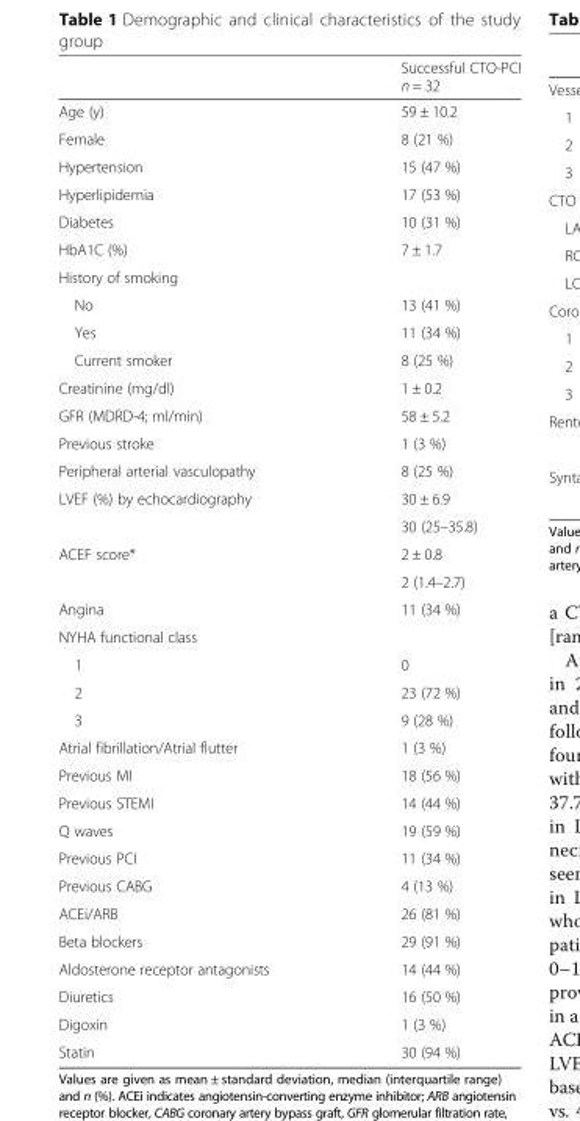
<table><thead><tr><td></td><td>Successful CTO-PCI n = 32</td></tr></thead><tbody><tr><td>Age (y)</td><td>59 ± 10.2</td></tr><tr><td>Female</td><td>8 (21 %)</td></tr><tr><td>Hypertension</td><td>15 (47 %)</td></tr><tr><td>Hyperlipidemia</td><td>17 (53 %)</td></tr><tr><td>Diabetes</td><td>10 (31 %)</td></tr><tr><td>HbA1C (%)</td><td>7 ± 1.7</td></tr><tr><td colspan="2">History of smoking</td></tr><tr><td>No</td><td>13 (41 %)</td></tr><tr><td>Yes</td><td>11 (34 %)</td></tr><tr><td>Current smoker</td><td>8 (25 %)</td></tr><tr><td>Creatinine (mg/dl)</td><td>1 ± 0.2</td></tr><tr><td>GFR (MDRD-4; ml/min)</td><td>58 ± 5.2</td></tr><tr><td>Previous stroke</td><td>1 (3 %)</td></tr><tr><td>Peripheral arterial vasculopathy</td><td>8 (25 %)</td></tr><tr><td rowspan="2">LVEF (%) by echocardiography</td><td>30 ± 6.9</td></tr><tr><td>30 (25–35.8)</td></tr><tr><td rowspan="2">ACEF score*</td><td>2 ± 0.8</td></tr><tr><td>2 (1.4–2.7)</td></tr><tr><td>Angina</td><td>11 (34 %)</td></tr><tr><td colspan="2">NYHA functional class</td></tr><tr><td>1</td><td>0</td></tr><tr><td>2</td><td>23 (72 %)</td></tr><tr><td>3</td><td>9 (28 %)</td></tr><tr><td>Atrial fibrillation/Atrial flutter</td><td>1 (3 %)</td></tr><tr><td>Previous MI</td><td>18 (56 %)</td></tr><tr><td>Previous STEMI</td><td>14 (44 %)</td></tr><tr><td>Q waves</td><td>19 (59 %)</td></tr><tr><td>Previous PCI</td><td>11 (34 %)</td></tr><tr><td>Previous CABG</td><td>4 (13 %)</td></tr><tr><td>ACEi/ARB</td><td>26 (81 %)</td></tr><tr><td>Beta blockers</td><td>29 (91 %)</td></tr><tr><td>Aldosterone receptor antagonists</td><td>14 (44 %)</td></tr><tr><td>Diuretics</td><td>16 (50 %)</td></tr><tr><td>Digoxin</td><td>1 (3 %)</td></tr><tr><td>Statin</td><td>30 (94 %)</td></tr></tbody></table>